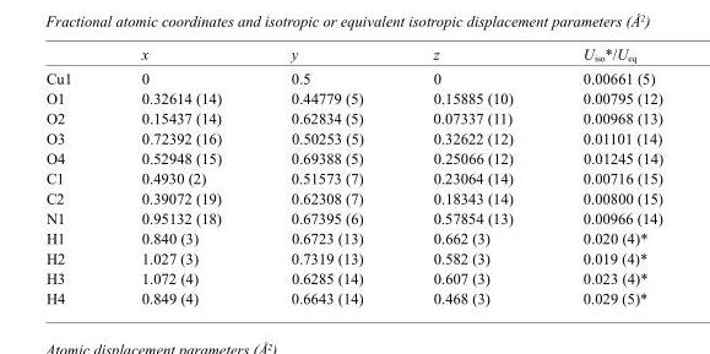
<table><thead><tr><td></td><td>x</td><td>y</td><td>z</td><td>U<sub>iso</sub>*/U<sub>eq</sub></td></tr></thead><tbody><tr><td>Cu1</td><td>0</td><td>0.5</td><td>0</td><td>0.00661 (5)</td></tr><tr><td>O1</td><td>0.32614 (14)</td><td>0.44779 (5)</td><td>0.15885 (10)</td><td>0.00795 (12)</td></tr><tr><td>O2</td><td>0.15437 (14)</td><td>0.62834 (5)</td><td>0.07337 (11)</td><td>0.00968 (13)</td></tr><tr><td>O3</td><td>0.72392 (16)</td><td>0.50253 (5)</td><td>0.32622 (12)</td><td>0.01101 (14)</td></tr><tr><td>O4</td><td>0.52948 (15)</td><td>0.69388 (5)</td><td>0.25066 (12)</td><td>0.01245 (14)</td></tr><tr><td>C1</td><td>0.4930 (2)</td><td>0.51573 (7)</td><td>0.23064 (14)</td><td>0.00716 (15)</td></tr><tr><td>C2</td><td>0.39072 (19)</td><td>0.62308 (7)</td><td>0.18343 (14)</td><td>0.00800 (15)</td></tr><tr><td>N1</td><td>0.95132 (18)</td><td>0.67395 (6)</td><td>0.57854 (13)</td><td>0.00966 (14)</td></tr><tr><td>H1</td><td>0.840 (3)</td><td>0.6723 (13)</td><td>0.662 (3)</td><td>0.020 (4)*</td></tr><tr><td>H2</td><td>1.027 (3)</td><td>0.7319 (13)</td><td>0.582 (3)</td><td>0.019 (4)*</td></tr><tr><td>H3</td><td>1.072 (4)</td><td>0.6285 (14)</td><td>0.607 (3)</td><td>0.023 (4)*</td></tr><tr><td>H4</td><td>0.849 (4)</td><td>0.6643 (14)</td><td>0.468 (3)</td><td>0.029 (5)*</td></tr></tbody></table>